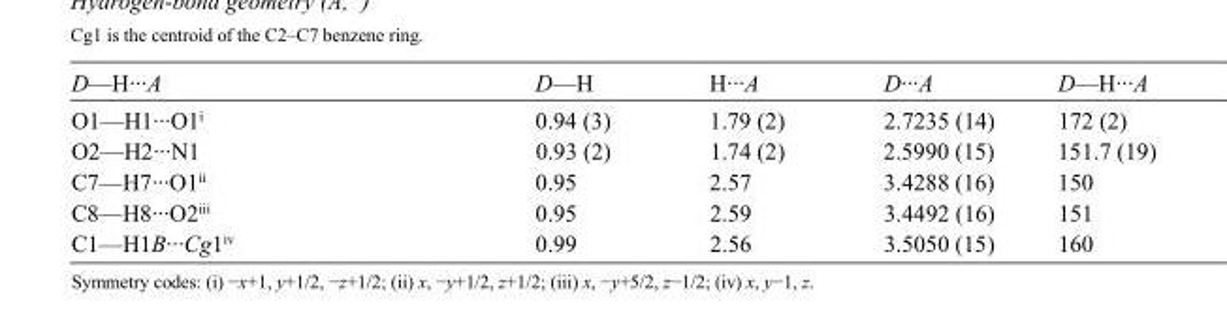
<table><tbody><tr><td>D—H···A</td><td>D—H</td><td>H···A</td><td>D···A</td><td>D—H···A</td></tr><tr><td>O1—H1···O1<sup>i</sup></td><td>0.94 (3)</td><td>1.79 (2)</td><td>2.7235 (14)</td><td>172 (2)</td></tr><tr><td>O2—H2···N1</td><td>0.93 (2)</td><td>1.74 (2)</td><td>2.5990 (15)</td><td>151.7 (19)</td></tr><tr><td>C7—H7···O1<sup>ii</sup></td><td>0.95</td><td>2.57</td><td>3.4288 (16)</td><td>150</td></tr><tr><td>C8—H8···O2<sup>iii</sup></td><td>0.95</td><td>2.59</td><td>3.4492 (16)</td><td>151</td></tr><tr><td>C1—H1B···Cg1<sup>iv</sup></td><td>0.99</td><td>2.56</td><td>3.5050 (15)</td><td>160</td></tr></tbody></table>